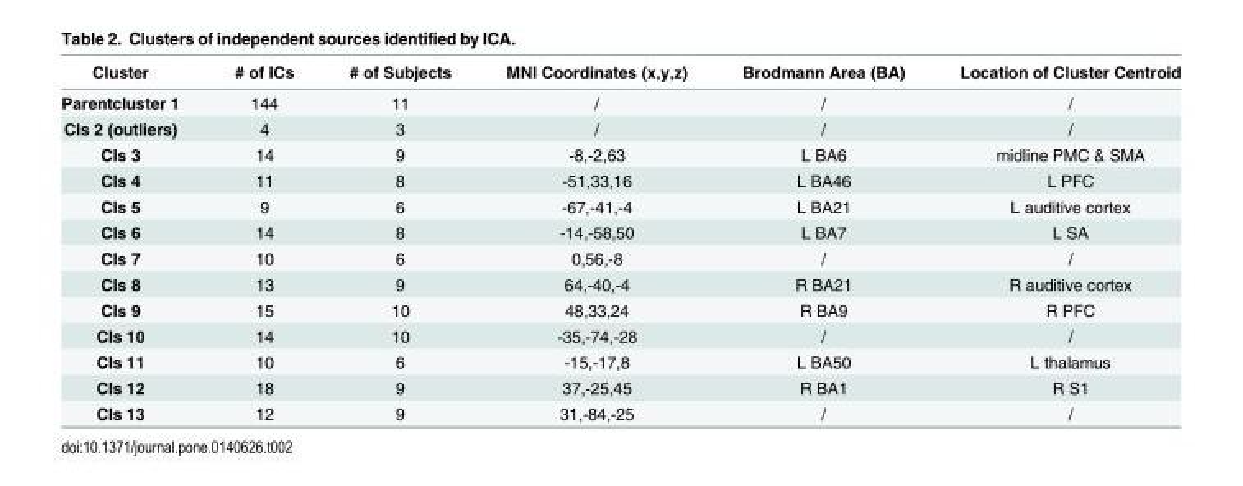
<table><thead><tr><td>Cluster</td><td># of ICs</td><td># of Subjects</td><td>MNI Coordinates (x,y,z)</td><td>Brodmann Area (BA)</td><td>Location of Cluster Centroid</td></tr></thead><tbody><tr><td>Parentcluster 1</td><td>144</td><td>11</td><td>/</td><td>/</td><td>/</td></tr><tr><td>Cls 2 (outliers)</td><td>4</td><td>3</td><td>/</td><td>/</td><td>/</td></tr><tr><td>Cls 3</td><td>14</td><td>9</td><td>-8,-2,63</td><td>L BA6</td><td>midline PMC &amp; SMA</td></tr><tr><td>Cls 4</td><td>11</td><td>8</td><td>-51,33,16</td><td>L BA46</td><td>L PFC</td></tr><tr><td>Cls 5</td><td>9</td><td>6</td><td>-67,-41,-4</td><td>L BA21</td><td>L auditive cortex</td></tr><tr><td>Cls 6</td><td>14</td><td>8</td><td>-14,-58,50</td><td>L BA7</td><td>L SA</td></tr><tr><td>Cls 7</td><td>10</td><td>6</td><td>0,56,-8</td><td>/</td><td>/</td></tr><tr><td>Cls 8</td><td>13</td><td>9</td><td>64,-40,-4</td><td>R BA21</td><td>R auditive cortex</td></tr><tr><td>Cls 9</td><td>15</td><td>10</td><td>48,33,24</td><td>R BA9</td><td>R PFC</td></tr><tr><td>Cls 10</td><td>14</td><td>10</td><td>-35,-74,-28</td><td>/</td><td>/</td></tr><tr><td>Cls 11</td><td>10</td><td>6</td><td>-15,-17,8</td><td>L BA50</td><td>L thalamus</td></tr><tr><td>Cls 12</td><td>18</td><td>9</td><td>37,-25,45</td><td>R BA1</td><td>R S1</td></tr><tr><td>Cls 13</td><td>12</td><td>9</td><td>31,-84,-25</td><td>/</td><td>/</td></tr></tbody></table>